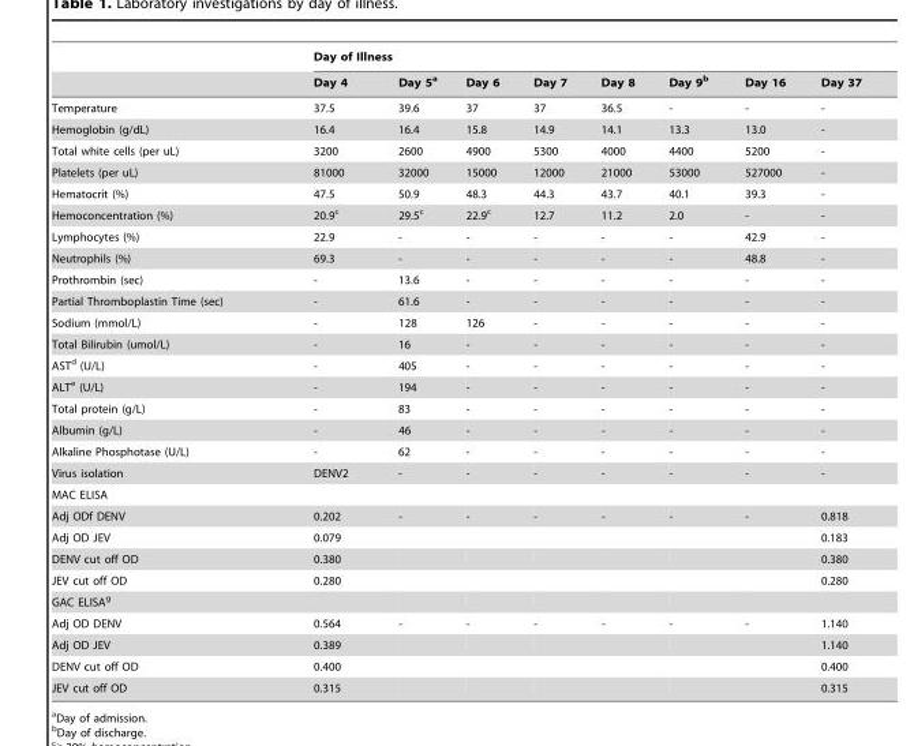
<table><thead><tr><td rowspan="2"></td><td colspan="8">Day of Illness</td></tr><tr><td>Day 4</td><td>Day 5<sup>a</sup></td><td>Day 6</td><td>Day 7</td><td>Day 8</td><td>Day 9<sup>b</sup></td><td>Day 16</td><td>Day 37</td></tr></thead><tbody><tr><td>Temperature</td><td>37.5</td><td>39.6</td><td>37</td><td>37</td><td>36.5</td><td>-</td><td>-</td><td>-</td></tr><tr><td>Hemoglobin (g/dL)</td><td>16.4</td><td>16.4</td><td>15.8</td><td>14.9</td><td>14.1</td><td>13.3</td><td>13.0</td><td>-</td></tr><tr><td>Total white cells (per uL)</td><td>3200</td><td>2600</td><td>4900</td><td>5300</td><td>4000</td><td>4400</td><td>5200</td><td>-</td></tr><tr><td>Platelets (per uL)</td><td>81000</td><td>32000</td><td>15000</td><td>12000</td><td>21000</td><td>53000</td><td>527000</td><td>-</td></tr><tr><td>Hematocrit (%)</td><td>47.5</td><td>50.9</td><td>48.3</td><td>44.3</td><td>43.7</td><td>40.1</td><td>39.3</td><td>-</td></tr><tr><td>Hemoconcentration (%)</td><td>20.9<sup>c</sup></td><td>29.5<sup>c</sup></td><td>22.9<sup>c</sup></td><td>12.7</td><td>11.2</td><td>2.0</td><td>-</td><td>-</td></tr><tr><td>Lymphocytes (%)</td><td>22.9</td><td>-</td><td>-</td><td>-</td><td>-</td><td>-</td><td>42.9</td><td>-</td></tr><tr><td>Neutrophils (%)</td><td>69.3</td><td>-</td><td>-</td><td>-</td><td>-</td><td>-</td><td>48.8</td><td>-</td></tr><tr><td>Prothrombin (sec)</td><td>-</td><td>13.6</td><td>-</td><td>-</td><td>-</td><td>-</td><td>-</td><td>-</td></tr><tr><td>Partial Thromboplastin Time (sec)</td><td>-</td><td>61.6</td><td>-</td><td>-</td><td>-</td><td>-</td><td>-</td><td>-</td></tr><tr><td>Sodium (mmol/L)</td><td>-</td><td>128</td><td>126</td><td>-</td><td>-</td><td>-</td><td>-</td><td>-</td></tr><tr><td>Total Bilirubin (umol/L)</td><td>-</td><td>16</td><td>-</td><td>-</td><td>-</td><td>-</td><td>-</td><td>-</td></tr><tr><td>AST<sup>d</sup> (U/L)</td><td>-</td><td>405</td><td>-</td><td>-</td><td>-</td><td>-</td><td>-</td><td>-</td></tr><tr><td>ALT<sup>e</sup> (U/L)</td><td>-</td><td>194</td><td>-</td><td>-</td><td>-</td><td>-</td><td>-</td><td>-</td></tr><tr><td>Total protein (g/L)</td><td>-</td><td>83</td><td>-</td><td>-</td><td>-</td><td>-</td><td>-</td><td>-</td></tr><tr><td>Albumin (g/L)</td><td>-</td><td>46</td><td>-</td><td>-</td><td>-</td><td>-</td><td>-</td><td>-</td></tr><tr><td>Alkaline Phosphotase (U/L)</td><td>-</td><td>62</td><td>-</td><td>-</td><td>-</td><td>-</td><td>-</td><td>-</td></tr><tr><td>Virus isolation</td><td>DENV2</td><td>-</td><td>-</td><td>-</td><td>-</td><td>-</td><td>-</td><td>-</td></tr><tr><td colspan="9">MAC ELISA</td></tr><tr><td>Adj ODf DENV</td><td>0.202</td><td>-</td><td>-</td><td>-</td><td>-</td><td>-</td><td>-</td><td>0.818</td></tr><tr><td>Adj OD JEV</td><td>0.079</td><td></td><td></td><td></td><td></td><td></td><td></td><td>0.183</td></tr><tr><td>DENV cut off OD</td><td>0.380</td><td></td><td></td><td></td><td></td><td></td><td></td><td>0.380</td></tr><tr><td>JEV cut off OD</td><td>0.280</td><td></td><td></td><td></td><td></td><td></td><td></td><td>0.280</td></tr><tr><td colspan="9">GAC ELISA<sup>g</sup></td></tr><tr><td>Adj OD DENV</td><td>0.564</td><td>-</td><td>-</td><td>-</td><td>-</td><td>-</td><td>-</td><td>1.140</td></tr><tr><td>Adj OD JEV</td><td>0.389</td><td></td><td></td><td></td><td></td><td></td><td></td><td>1.140</td></tr><tr><td>DENV cut off OD</td><td>0.400</td><td></td><td></td><td></td><td></td><td></td><td></td><td>0.400</td></tr><tr><td>JEV cut off OD</td><td>0.315</td><td></td><td></td><td></td><td></td><td></td><td></td><td>0.315</td></tr></tbody></table>